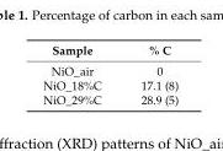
<table><thead><tr><td>Sample</td><td>% C</td></tr></thead><tbody><tr><td>NiO_air</td><td>0</td></tr><tr><td>NiO_18%C</td><td>17.1 (8)</td></tr><tr><td>NiO_29%C</td><td>28.9 (5)</td></tr></tbody></table>